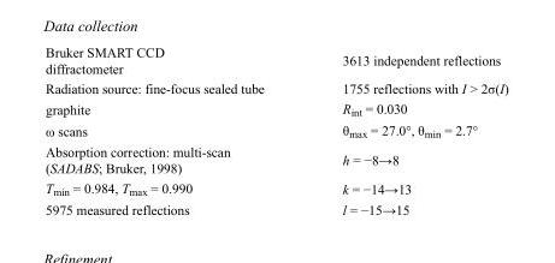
<table><tbody><tr><td>Bruker SMART CCD diffractometer</td><td>3613 independent reflections</td></tr><tr><td>Radiation source: fine-focus sealed tube</td><td>1755 reflections with I &gt; 2σ(I)</td></tr><tr><td>graphite</td><td>R<sub>int</sub> = 0.030</td></tr><tr><td>ω scans</td><td>θ<sub>max</sub> = 27.0°, θ<sub>min</sub> = 2.7°</td></tr><tr><td>Absorption correction: multi-scan (SADABS; Bruker, 1998)</td><td>h = −8→8</td></tr><tr><td>T<sub>min</sub> = 0.984, T<sub>max</sub> = 0.990</td><td>k = −14→13</td></tr><tr><td>5975 measured reflections</td><td>l = −15→15</td></tr></tbody></table>